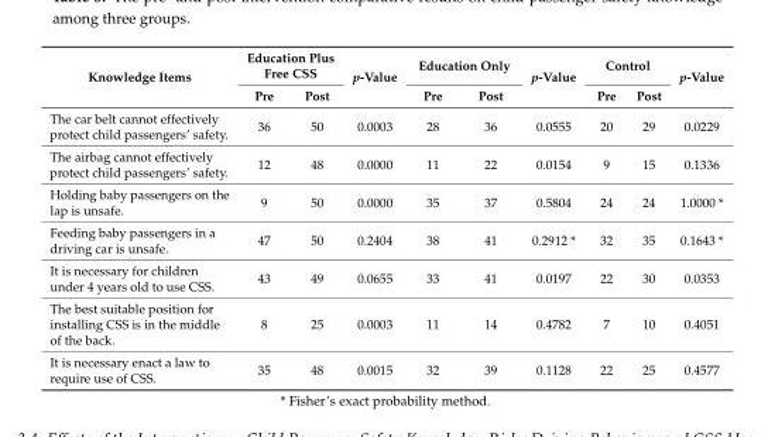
<table><thead><tr><td rowspan="2">Knowledge Items</td><td colspan="2">Education Plus Free CSS</td><td rowspan="2">p-Value</td><td colspan="2">Education Only</td><td rowspan="2">p-Value</td><td colspan="2">Control</td><td rowspan="2">p-Value</td></tr><tr><td>Pre</td><td>Post</td><td>Pre</td><td>Post</td><td>Pre</td><td>Post</td></tr></thead><tbody><tr><td>The car belt cannot effectively protect child passengers’ safety.</td><td>36</td><td>50</td><td>0.0003</td><td>28</td><td>36</td><td>0.0555</td><td>20</td><td>29</td><td>0.0229</td></tr><tr><td>The airbag cannot effectively protect child passengers’ safety.</td><td>12</td><td>48</td><td>0.0000</td><td>11</td><td>22</td><td>0.0154</td><td>9</td><td>15</td><td>0.1336</td></tr><tr><td>Holding baby passengers on the lap is unsafe.</td><td>9</td><td>50</td><td>0.0000</td><td>35</td><td>37</td><td>0.5804</td><td>24</td><td>24</td><td>1.0000 *</td></tr><tr><td>Feeding baby passengers in a driving car is unsafe.</td><td>47</td><td>50</td><td>0.2404</td><td>38</td><td>41</td><td>0.2912 *</td><td>32</td><td>35</td><td>0.1643 *</td></tr><tr><td>It is necessary for children under 4 years old to use CSS.</td><td>43</td><td>49</td><td>0.0655</td><td>33</td><td>41</td><td>0.0197</td><td>22</td><td>30</td><td>0.0353</td></tr><tr><td>The best suitable position for installing CSS is in the middle of the back.</td><td>8</td><td>25</td><td>0.0003</td><td>11</td><td>14</td><td>0.4782</td><td>7</td><td>10</td><td>0.4051</td></tr><tr><td>It is necessary enact a law to require use of CSS.</td><td>35</td><td>48</td><td>0.0015</td><td>32</td><td>39</td><td>0.1128</td><td>22</td><td>25</td><td>0.4577</td></tr></tbody></table>